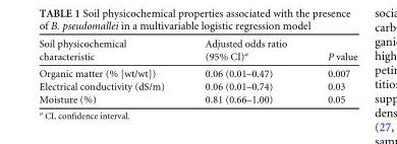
<table><thead><tr><td>Soil physicochemical characteristic</td><td>Adjusted odds ratio (95% CI)<sup>a</sup></td><td>P value</td></tr></thead><tbody><tr><td>Organic matter (% [wt/wt])</td><td>0.06 (0.01–0.47)</td><td>0.007</td></tr><tr><td>Electrical conductivity (dS/m)</td><td>0.06 (0.01–0.74)</td><td>0.03</td></tr><tr><td>Moisture (%)</td><td>0.81 (0.66–1.00)</td><td>0.05</td></tr></tbody></table>